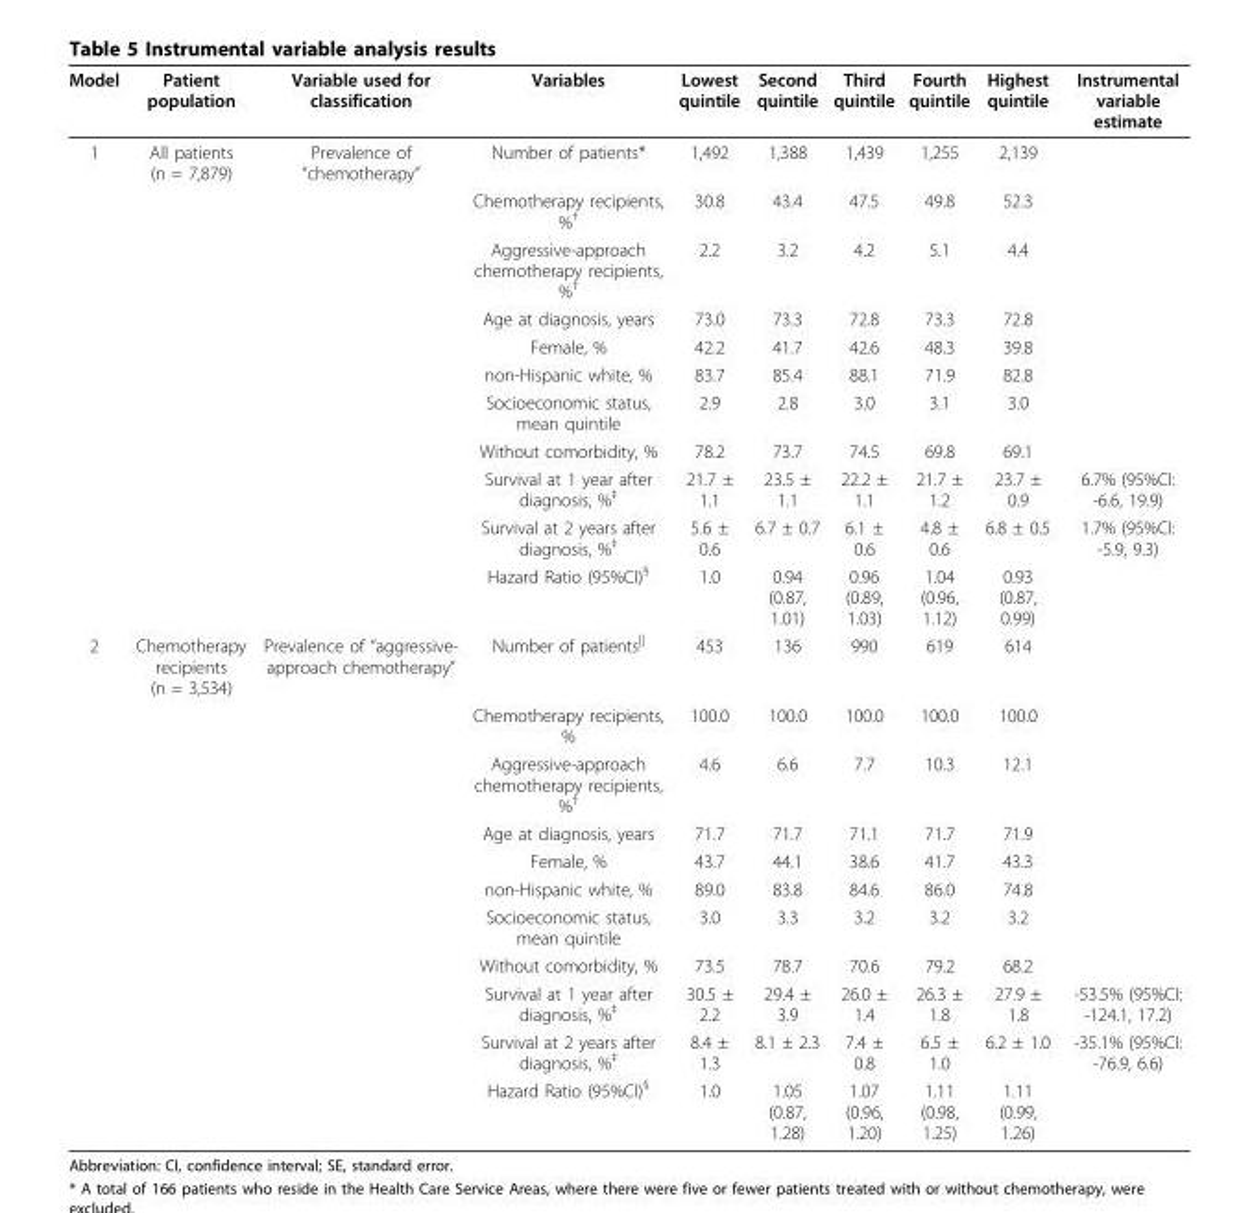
<table><thead><tr><td>Model</td><td>Patient population</td><td>Variable used for classification</td><td>Variables</td><td>Lowest quintile</td><td>Second quintile</td><td>Third quintile</td><td>Fourth quintile</td><td>Highest quintile</td><td>Instrumental variable estimate</td></tr></thead><tbody><tr><td rowspan="11">1</td><td>All patients (n = 7,879)</td><td>Prevalence of “chemotherapy”</td><td>Number of patients*</td><td>1,492</td><td>1,388</td><td>1,439</td><td>1,255</td><td>2,139</td><td></td></tr><tr><td></td><td></td><td>Chemotherapy recipients, %<sup>†</sup></td><td>30.8</td><td>43.4</td><td>47.5</td><td>49.8</td><td>52.3</td><td></td></tr><tr><td></td><td></td><td>Aggressive-approach chemotherapy recipients, %<sup>†</sup></td><td>2.2</td><td>3.2</td><td>4.2</td><td>5.1</td><td>4.4</td><td></td></tr><tr><td></td><td></td><td>Age at diagnosis, years</td><td>73.0</td><td>73.3</td><td>72.8</td><td>73.3</td><td>72.8</td><td></td></tr><tr><td></td><td></td><td>Female, %</td><td>42.2</td><td>41.7</td><td>42.6</td><td>48.3</td><td>39.8</td><td></td></tr><tr><td></td><td></td><td>non-Hispanic white, %</td><td>83.7</td><td>85.4</td><td>88.1</td><td>71.9</td><td>82.8</td><td></td></tr><tr><td></td><td></td><td>Socioeconomic status, mean quintile</td><td>2.9</td><td>2.8</td><td>3.0</td><td>3.1</td><td>3.0</td><td></td></tr><tr><td></td><td></td><td>Without comorbidity, %</td><td>78.2</td><td>73.7</td><td>74.5</td><td>69.8</td><td>69.1</td><td></td></tr><tr><td></td><td></td><td>Survival at 1 year after diagnosis, %<sup>‡</sup></td><td>21.7 ± 1.1</td><td>23.5 ± 1.1</td><td>22.2 ± 1.1</td><td>21.7 ± 1.2</td><td>23.7 ± 0.9</td><td>6.7% (95%CI: -6.6, 19.9)</td></tr><tr><td></td><td></td><td>Survival at 2 years after diagnosis, %<sup>‡</sup></td><td>5.6 ± 0.6</td><td>6.7 ± 0.7</td><td>6.1 ± 0.6</td><td>4.8 ± 0.6</td><td>6.8 ± 0.5</td><td>1.7% (95%CI: -5.9, 9.3)</td></tr><tr><td></td><td></td><td>Hazard Ratio (95%CI)<sup>§</sup></td><td>1.0</td><td>0.94 (0.87, 1.01)</td><td>0.96 (0.89, 1.03)</td><td>1.04 (0.96, 1.12)</td><td>0.93 (0.87, 0.99)</td><td></td></tr><tr><td rowspan="11">2</td><td>Chemotherapy recipients (n = 3,534)</td><td>Prevalence of “aggressive- approach chemotherapy”</td><td>Number of patients<sup>||</sup></td><td>453</td><td>136</td><td>990</td><td>619</td><td>614</td><td></td></tr><tr><td></td><td></td><td>Chemotherapy recipients, %</td><td>100.0</td><td>100.0</td><td>100.0</td><td>100.0</td><td>100.0</td><td></td></tr><tr><td></td><td></td><td>Aggressive-approach chemotherapy recipients, %<sup>†</sup></td><td>4.6</td><td>6.6</td><td>7.7</td><td>10.3</td><td>12.1</td><td></td></tr><tr><td></td><td></td><td>Age at diagnosis, years</td><td>71.7</td><td>71.7</td><td>71.1</td><td>71.7</td><td>71.9</td><td></td></tr><tr><td></td><td></td><td>Female, %</td><td>43.7</td><td>44.1</td><td>38.6</td><td>41.7</td><td>43.3</td><td></td></tr><tr><td></td><td></td><td>non-Hispanic white, %</td><td>89.0</td><td>83.8</td><td>84.6</td><td>86.0</td><td>74.8</td><td></td></tr><tr><td></td><td></td><td>Socioeconomic status, mean quintile</td><td>3.0</td><td>3.3</td><td>3.2</td><td>3.2</td><td>3.2</td><td></td></tr><tr><td></td><td></td><td>Without comorbidity, %</td><td>73.5</td><td>78.7</td><td>70.6</td><td>79.2</td><td>68.2</td><td></td></tr><tr><td></td><td></td><td>Survival at 1 year after diagnosis, %<sup>‡</sup></td><td>30.5 ± 2.2</td><td>29.4 ± 3.9</td><td>26.0 ± 1.4</td><td>26.3 ± 1.8</td><td>27.9 ± 1.8</td><td>-53.5% (95%CI: -124.1, 17.2)</td></tr><tr><td></td><td></td><td>Survival at 2 years after diagnosis, %<sup>‡</sup></td><td>8.4 ± 1.3</td><td>8.1 ± 2.3</td><td>7.4 ± 0.8</td><td>6.5 ± 1.0</td><td>6.2 ± 1.0</td><td>-35.1% (95%CI: -76.9, 6.6)</td></tr><tr><td></td><td></td><td>Hazard Ratio (95%CI)<sup>§</sup></td><td>1.0</td><td>1.05 (0.87, 1.28)</td><td>1.07 (0.96, 1.20)</td><td>1.11 (0.98, 1.25)</td><td>1.11 (0.99, 1.26)</td><td></td></tr></tbody></table>